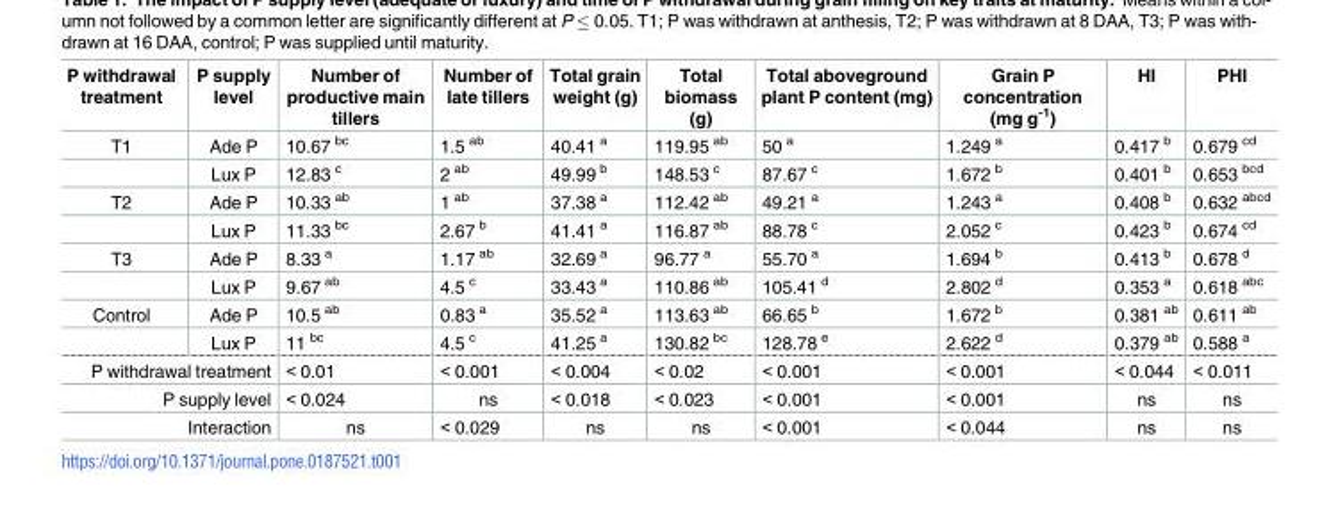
<table><thead><tr><td>P withdrawal treatment</td><td>P supply level</td><td>Number of productive main tillers</td><td>Number of late tillers</td><td>Total grain weight (g)</td><td>Total biomass (g)</td><td>Total aboveground plant P content (mg)</td><td>Grain P concentration (mg g<sup>-1</sup>)</td><td>HI</td><td>PHI</td></tr></thead><tbody><tr><td rowspan="2">T1</td><td>Ade P</td><td>10.67 <sup>bc</sup></td><td>1.5 <sup>ab</sup></td><td>40.41 <sup>a</sup></td><td>119.95 <sup>ab</sup></td><td>50 <sup>a</sup></td><td>1.249 <sup>a</sup></td><td>0.417 <sup>b</sup></td><td>0.679 <sup>cd</sup></td></tr><tr><td>Lux P</td><td>12.83 <sup>c</sup></td><td>2 <sup>ab</sup></td><td>49.99 <sup>b</sup></td><td>148.53 <sup>c</sup></td><td>87.67 <sup>c</sup></td><td>1.672 <sup>b</sup></td><td>0.401 <sup>b</sup></td><td>0.653 <sup>bcd</sup></td></tr><tr><td rowspan="2">T2</td><td>Ade P</td><td>10.33 <sup>ab</sup></td><td>1 <sup>ab</sup></td><td>37.38 <sup>a</sup></td><td>112.42 <sup>ab</sup></td><td>49.21 <sup>a</sup></td><td>1.243 <sup>a</sup></td><td>0.408 <sup>b</sup></td><td>0.632 <sup>abcd</sup></td></tr><tr><td>Lux P</td><td>11.33 <sup>bc</sup></td><td>2.67 <sup>b</sup></td><td>41.41 <sup>a</sup></td><td>116.87 <sup>ab</sup></td><td>88.78 <sup>c</sup></td><td>2.052 <sup>c</sup></td><td>0.423 <sup>b</sup></td><td>0.674 <sup>cd</sup></td></tr><tr><td rowspan="2">T3</td><td>Ade P</td><td>8.33 <sup>a</sup></td><td>1.17 <sup>ab</sup></td><td>32.69 <sup>a</sup></td><td>96.77 <sup>a</sup></td><td>55.70 <sup>a</sup></td><td>1.694 <sup>b</sup></td><td>0.413 <sup>b</sup></td><td>0.678 <sup>d</sup></td></tr><tr><td>Lux P</td><td>9.67 <sup>ab</sup></td><td>4.5 <sup>c</sup></td><td>33.43 <sup>a</sup></td><td>110.86 <sup>ab</sup></td><td>105.41 <sup>d</sup></td><td>2.802 <sup>d</sup></td><td>0.353 <sup>a</sup></td><td>0.618 <sup>abc</sup></td></tr><tr><td rowspan="2">Control</td><td>Ade P</td><td>10.5 <sup>ab</sup></td><td>0.83 <sup>a</sup></td><td>35.52 <sup>a</sup></td><td>113.63 <sup>ab</sup></td><td>66.65 <sup>b</sup></td><td>1.672 <sup>b</sup></td><td>0.381 <sup>ab</sup></td><td>0.611 <sup>ab</sup></td></tr><tr><td>Lux P</td><td>11 <sup>bc</sup></td><td>4.5 <sup>c</sup></td><td>41.25 <sup>a</sup></td><td>130.82 <sup>bc</sup></td><td>128.78 <sup>e</sup></td><td>2.622 <sup>d</sup></td><td>0.379 <sup>ab</sup></td><td>0.588 <sup>a</sup></td></tr><tr><td colspan="2">P withdrawal treatment</td><td>&lt; 0.01</td><td>&lt; 0.001</td><td>&lt; 0.004</td><td>&lt; 0.02</td><td>&lt; 0.001</td><td>&lt; 0.001</td><td>&lt; 0.044</td><td>&lt; 0.011</td></tr><tr><td colspan="2">P supply level</td><td>&lt; 0.024</td><td>ns</td><td>&lt; 0.018</td><td>&lt; 0.023</td><td>&lt; 0.001</td><td>&lt; 0.001</td><td>ns</td><td>ns</td></tr><tr><td colspan="2">Interaction</td><td>ns</td><td>&lt; 0.029</td><td>ns</td><td>ns</td><td>&lt; 0.001</td><td>&lt; 0.044</td><td>ns</td><td>ns</td></tr></tbody></table>